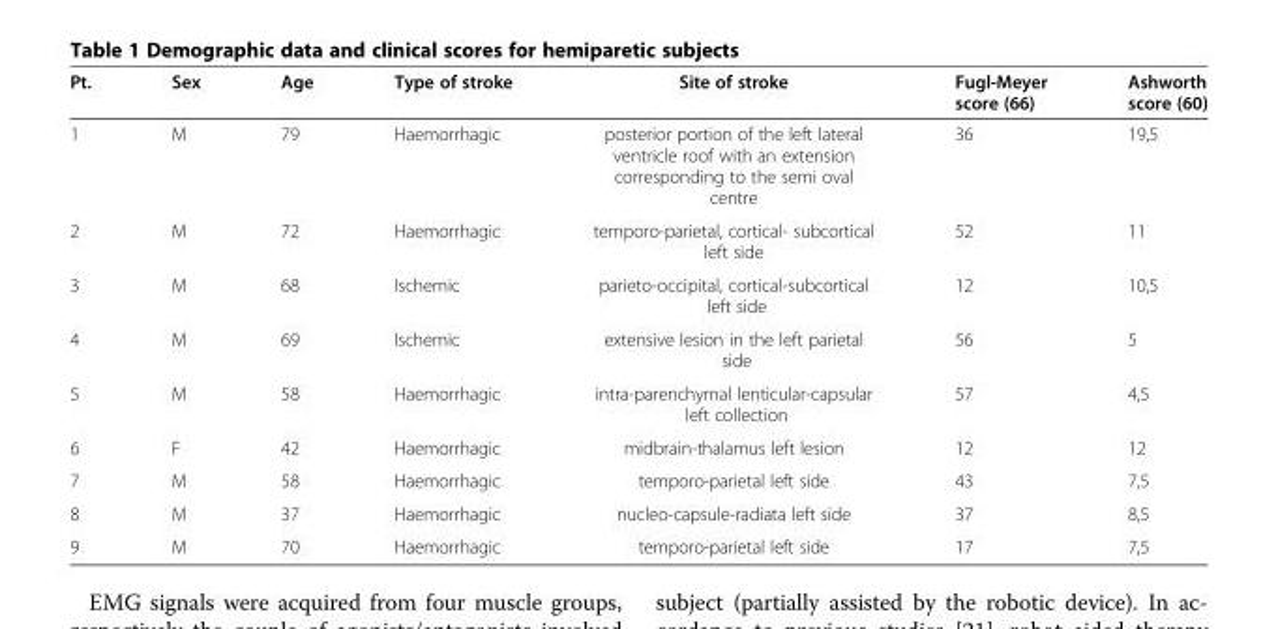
<table><thead><tr><td>Pt.</td><td>Sex</td><td>Age</td><td>Type of stroke</td><td>Site of stroke</td><td>Fugl-Meyer score (66)</td><td>Ashworth score (60)</td></tr></thead><tbody><tr><td>1</td><td>M</td><td>79</td><td>Haemorrhagic</td><td>posterior portion of the left lateral ventricle roof with an extension corresponding to the semi oval centre</td><td>36</td><td>19,5</td></tr><tr><td>2</td><td>M</td><td>72</td><td>Haemorrhagic</td><td>temporo-parietal, cortical- subcortical left side</td><td>52</td><td>11</td></tr><tr><td>3</td><td>M</td><td>68</td><td>Ischemic</td><td>parieto-occipital, cortical-subcortical left side</td><td>12</td><td>10,5</td></tr><tr><td>4</td><td>M</td><td>69</td><td>Ischemic</td><td>extensive lesion in the left parietal side</td><td>56</td><td>5</td></tr><tr><td>5</td><td>M</td><td>58</td><td>Haemorrhagic</td><td>intra-parenchymal lenticular-capsular left collection</td><td>57</td><td>4,5</td></tr><tr><td>6</td><td>F</td><td>42</td><td>Haemorrhagic</td><td>midbrain-thalamus left lesion</td><td>12</td><td>12</td></tr><tr><td>7</td><td>M</td><td>58</td><td>Haemorrhagic</td><td>temporo-parietal left side</td><td>43</td><td>7,5</td></tr><tr><td>8</td><td>M</td><td>37</td><td>Haemorrhagic</td><td>nucleo-capsule-radiata left side</td><td>37</td><td>8,5</td></tr><tr><td>9</td><td>M</td><td>70</td><td>Haemorrhagic</td><td>temporo-parietal left side</td><td>17</td><td>7,5</td></tr></tbody></table>